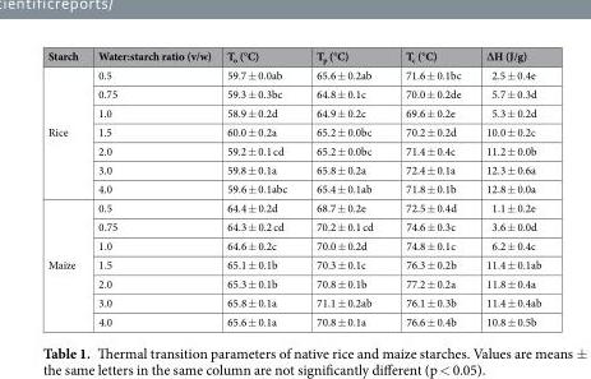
<table><thead><tr><td>Starch</td><td>Water:starch ratio (v/w)</td><td>T<sub>o</sub> (°C)</td><td>T<sub>p</sub> (°C)</td><td>T<sub>c</sub> (°C)</td><td>∆H (J/g)</td></tr></thead><tbody><tr><td rowspan="7">Rice</td><td>0.5</td><td>59.7 ± 0.0ab</td><td>65.6 ± 0.2ab</td><td>71.6 ± 0.1bc</td><td>2.5 ± 0.4e</td></tr><tr><td>0.75</td><td>59.3 ± 0.3bc</td><td>64.8 ± 0.1c</td><td>70.0 ± 0.2de</td><td>5.7 ± 0.3d</td></tr><tr><td>1.0</td><td>58.9 ± 0.2d</td><td>64.9 ± 0.2c</td><td>69.6 ± 0.2e</td><td>5.3 ± 0.2d</td></tr><tr><td>1.5</td><td>60.0 ± 0.2a</td><td>65.2 ± 0.0bc</td><td>70.2 ± 0.2d</td><td>10.0 ± 0.2c</td></tr><tr><td>2.0</td><td>59.2 ± 0.1 cd</td><td>65.2 ± 0.0bc</td><td>71.4 ± 0.4c</td><td>11.2 ± 0.0b</td></tr><tr><td>3.0</td><td>59.8 ± 0.1a</td><td>65.8 ± 0.2a</td><td>72.4 ± 0.1a</td><td>12.3 ± 0.6a</td></tr><tr><td>4.0</td><td>59.6 ± 0.1abc</td><td>65.4 ± 0.1ab</td><td>71.8 ± 0.1b</td><td>12.8 ± 0.0a</td></tr><tr><td rowspan="7">Maize</td><td>0.5</td><td>64.4 ± 0.2d</td><td>68.7 ± 0.2e</td><td>72.5 ± 0.4d</td><td>1.1 ± 0.2e</td></tr><tr><td>0.75</td><td>64.3 ± 0.2 cd</td><td>70.2 ± 0.1 cd</td><td>74.6 ± 0.3c</td><td>3.6 ± 0.0d</td></tr><tr><td>1.0</td><td>64.6 ± 0.2c</td><td>70.0 ± 0.2d</td><td>74.8 ± 0.1c</td><td>6.2 ± 0.4c</td></tr><tr><td>1.5</td><td>65.1 ± 0.1b</td><td>70.3 ± 0.1c</td><td>76.3 ± 0.2b</td><td>11.4 ± 0.1ab</td></tr><tr><td>2.0</td><td>65.3 ± 0.1b</td><td>70.8 ± 0.1b</td><td>77.2 ± 0.2a</td><td>11.8 ± 0.4a</td></tr><tr><td>3.0</td><td>65.8 ± 0.1a</td><td>71.1 ± 0.2ab</td><td>76.1 ± 0.3b</td><td>11.4 ± 0.4ab</td></tr><tr><td>4.0</td><td>65.6 ± 0.1a</td><td>70.8 ± 0.1a</td><td>76.6 ± 0.4b</td><td>10.8 ± 0.5b</td></tr></tbody></table>